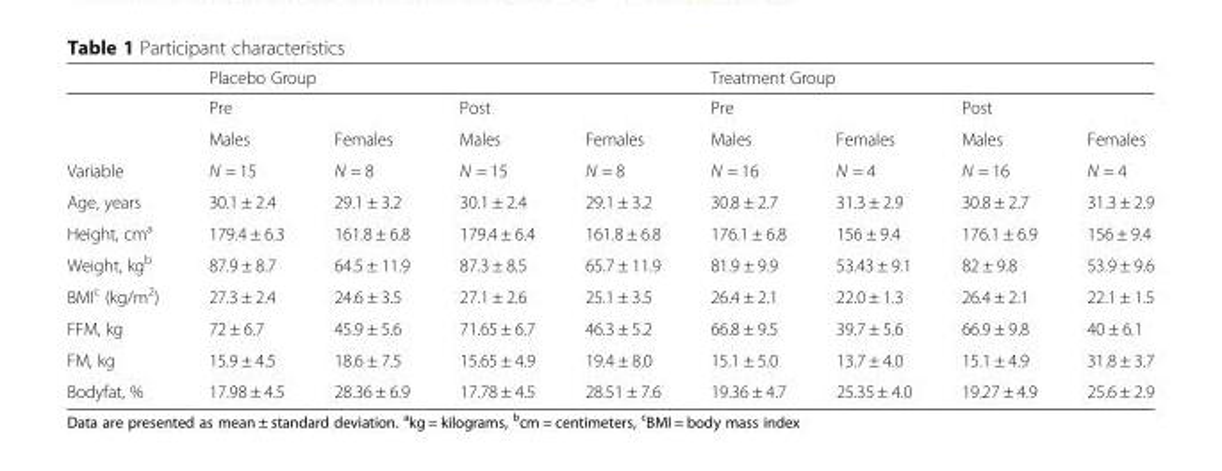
<table><thead><tr><td rowspan="3"></td><td colspan="4">Placebo Group</td><td colspan="4">Treatment Group</td></tr><tr><td colspan="2">Pre</td><td colspan="2">Post</td><td colspan="2">Pre</td><td colspan="2">Post</td></tr><tr><td>Males</td><td>Females</td><td>Males</td><td>Females</td><td>Males</td><td>Females</td><td>Males</td><td>Females</td></tr></thead><tbody><tr><td>Variable</td><td>N = 15</td><td>N = 8</td><td>N = 15</td><td>N = 8</td><td>N = 16</td><td>N = 4</td><td>N = 16</td><td>N = 4</td></tr><tr><td>Age, years</td><td>30.1 ± 2.4</td><td>29.1 ± 3.2</td><td>30.1 ± 2.4</td><td>29.1 ± 3.2</td><td>30.8 ± 2.7</td><td>31.3 ± 2.9</td><td>30.8 ± 2.7</td><td>31.3 ± 2.9</td></tr><tr><td>Height, cm<sup>a</sup></td><td>179.4 ± 6.3</td><td>161.8 ± 6.8</td><td>179.4 ± 6.4</td><td>161.8 ± 6.8</td><td>176.1 ± 6.8</td><td>156 ± 9.4</td><td>176.1 ± 6.9</td><td>156 ± 9.4</td></tr><tr><td>Weight, kg<sup>b</sup></td><td>87.9 ± 8.7</td><td>64.5 ± 11.9</td><td>87.3 ± 8.5</td><td>65.7 ± 11.9</td><td>81.9 ± 9.9</td><td>53.43 ± 9.1</td><td>82 ± 9.8</td><td>53.9 ± 9.6</td></tr><tr><td>BMI<sup>c</sup> (kg/m<sup>2</sup>)</td><td>27.3 ± 2.4</td><td>24.6 ± 3.5</td><td>27.1 ± 2.6</td><td>25.1 ± 3.5</td><td>26.4 ± 2.1</td><td>22.0 ± 1.3</td><td>26.4 ± 2.1</td><td>22.1 ± 1.5</td></tr><tr><td>FFM, kg</td><td>72 ± 6.7</td><td>45.9 ± 5.6</td><td>71.65 ± 6.7</td><td>46.3 ± 5.2</td><td>66.8 ± 9.5</td><td>39.7 ± 5.6</td><td>66.9 ± 9.8</td><td>40 ± 6.1</td></tr><tr><td>FM, kg</td><td>15.9 ± 4.5</td><td>18.6 ± 7.5</td><td>15.65 ± 4.9</td><td>19.4 ± 8.0</td><td>15.1 ± 5.0</td><td>13.7 ± 4.0</td><td>15.1 ± 4.9</td><td>31.8 ± 3.7</td></tr><tr><td>Bodyfat, %</td><td>17.98 ± 4.5</td><td>28.36 ± 6.9</td><td>17.78 ± 4.5</td><td>28.51 ± 7.6</td><td>19.36 ± 4.7</td><td>25.35 ± 4.0</td><td>19.27 ± 4.9</td><td>25.6 ± 2.9</td></tr></tbody></table>